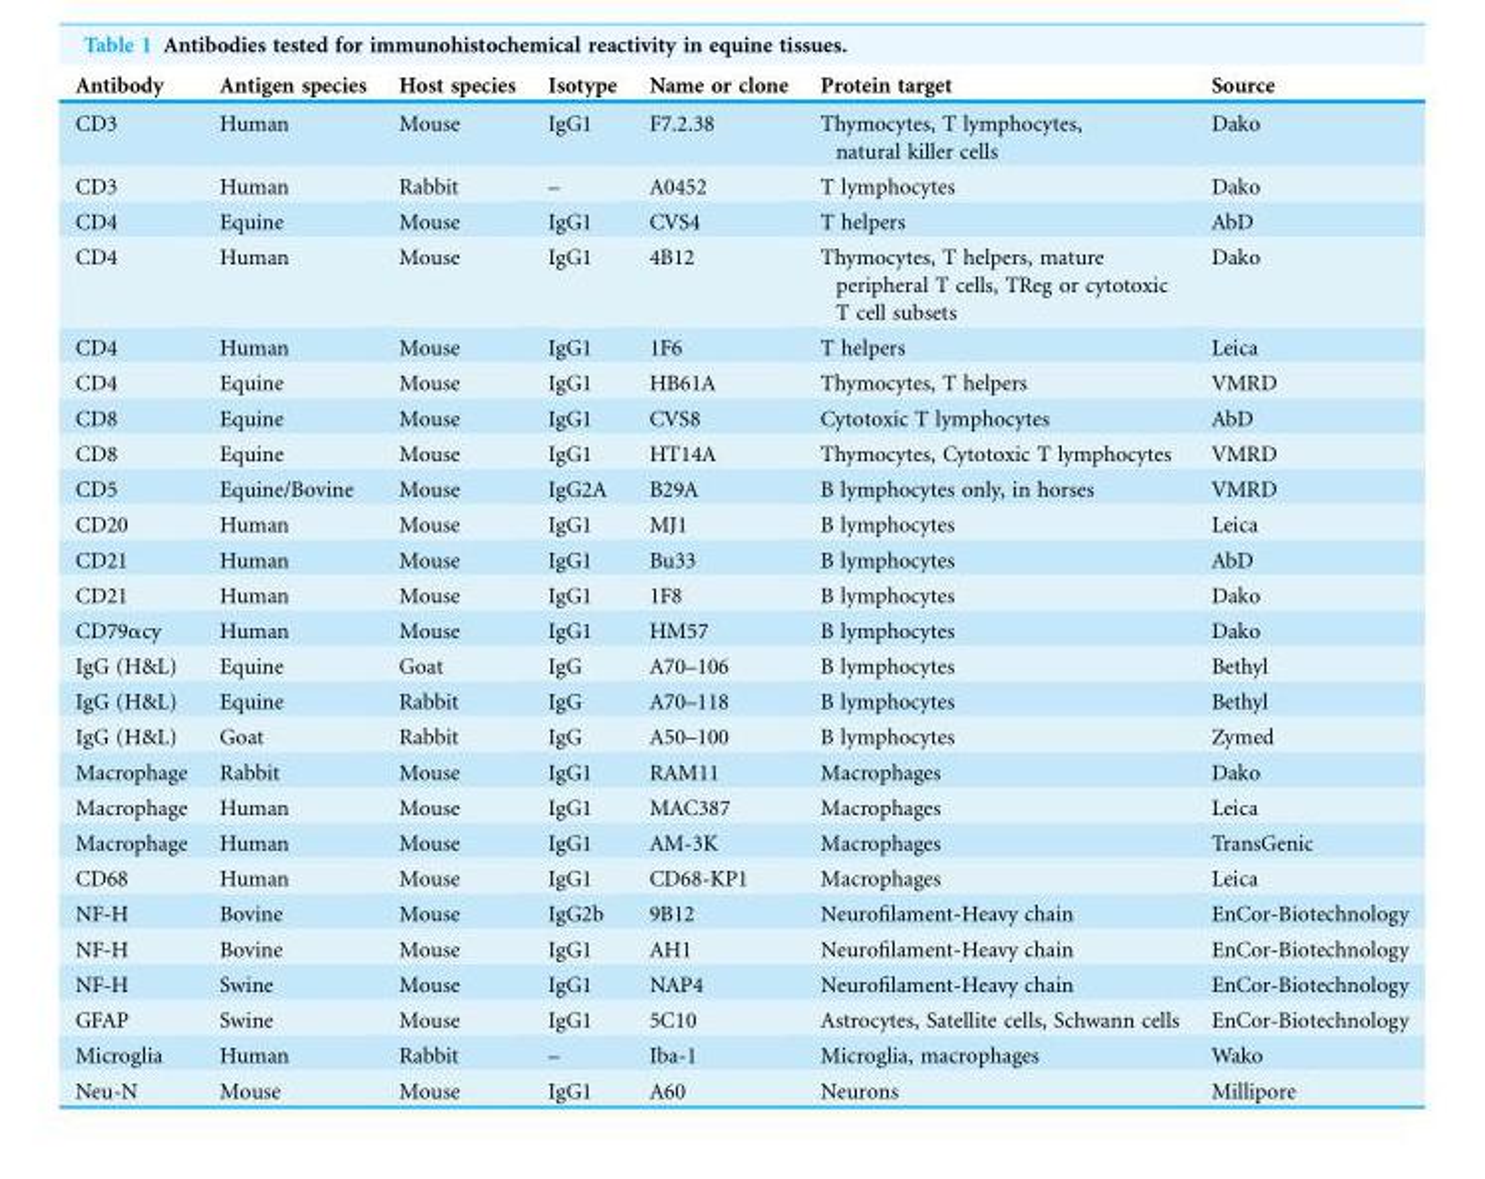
<table><thead><tr><td>Antibody</td><td>Antigen species</td><td>Host species</td><td>Isotype</td><td>Name or clone</td><td>Protein target</td><td>Source</td></tr></thead><tbody><tr><td>CD3</td><td>Human</td><td>Mouse</td><td>IgG1</td><td>F7.2.38</td><td>Thymocytes, T lymphocytes, natural killer cells</td><td>Dako</td></tr><tr><td>CD3</td><td>Human</td><td>Rabbit</td><td>–</td><td>A0452</td><td>T lymphocytes</td><td>Dako</td></tr><tr><td>CD4</td><td>Equine</td><td>Mouse</td><td>IgG1</td><td>CVS4</td><td>T helpers</td><td>AbD</td></tr><tr><td>CD4</td><td>Human</td><td>Mouse</td><td>IgG1</td><td>4B12</td><td>Thymocytes, T helpers, mature peripheral T cells, TReg or cytotoxic T cell subsets</td><td>Dako</td></tr><tr><td>CD4</td><td>Human</td><td>Mouse</td><td>IgG1</td><td>1F6</td><td>T helpers</td><td>Leica</td></tr><tr><td>CD4</td><td>Equine</td><td>Mouse</td><td>IgG1</td><td>HB61A</td><td>Thymocytes, T helpers</td><td>VMRD</td></tr><tr><td>CD8</td><td>Equine</td><td>Mouse</td><td>IgG1</td><td>CVS8</td><td>Cytotoxic T lymphocytes</td><td>AbD</td></tr><tr><td>CD8</td><td>Equine</td><td>Mouse</td><td>IgG1</td><td>HT14A</td><td>Thymocytes, Cytotoxic T lymphocytes</td><td>VMRD</td></tr><tr><td>CD5</td><td>Equine/Bovine</td><td>Mouse</td><td>IgG2A</td><td>B29A</td><td>B lymphocytes only, in horses</td><td>VMRD</td></tr><tr><td>CD20</td><td>Human</td><td>Mouse</td><td>IgG1</td><td>MJ1</td><td>B lymphocytes</td><td>Leica</td></tr><tr><td>CD21</td><td>Human</td><td>Mouse</td><td>IgG1</td><td>Bu33</td><td>B lymphocytes</td><td>AbD</td></tr><tr><td>CD21</td><td>Human</td><td>Mouse</td><td>IgG1</td><td>1F8</td><td>B lymphocytes</td><td>Dako</td></tr><tr><td>CD79αcy</td><td>Human</td><td>Mouse</td><td>IgG1</td><td>HM57</td><td>B lymphocytes</td><td>Dako</td></tr><tr><td>IgG (H&amp;L)</td><td>Equine</td><td>Goat</td><td>IgG</td><td>A70–106</td><td>B lymphocytes</td><td>Bethyl</td></tr><tr><td>IgG (H&amp;L)</td><td>Equine</td><td>Rabbit</td><td>IgG</td><td>A70–118</td><td>B lymphocytes</td><td>Bethyl</td></tr><tr><td>IgG (H&amp;L)</td><td>Goat</td><td>Rabbit</td><td>IgG</td><td>A50–100</td><td>B lymphocytes</td><td>Zymed</td></tr><tr><td>Macrophage</td><td>Rabbit</td><td>Mouse</td><td>IgG1</td><td>RAM11</td><td>Macrophages</td><td>Dako</td></tr><tr><td>Macrophage</td><td>Human</td><td>Mouse</td><td>IgG1</td><td>MAC387</td><td>Macrophages</td><td>Leica</td></tr><tr><td>Macrophage</td><td>Human</td><td>Mouse</td><td>IgG1</td><td>AM-3K</td><td>Macrophages</td><td>TransGenic</td></tr><tr><td>CD68</td><td>Human</td><td>Mouse</td><td>IgG1</td><td>CD68-KP1</td><td>Macrophages</td><td>Leica</td></tr><tr><td>NF-H</td><td>Bovine</td><td>Mouse</td><td>IgG2b</td><td>9B12</td><td>Neurofilament-Heavy chain</td><td>EnCor-Biotechnology</td></tr><tr><td>NF-H</td><td>Bovine</td><td>Mouse</td><td>IgG1</td><td>AH1</td><td>Neurofilament-Heavy chain</td><td>EnCor-Biotechnology</td></tr><tr><td>NF-H</td><td>Swine</td><td>Mouse</td><td>IgG1</td><td>NAP4</td><td>Neurofilament-Heavy chain</td><td>EnCor-Biotechnology</td></tr><tr><td>GFAP</td><td>Swine</td><td>Mouse</td><td>IgG1</td><td>5C10</td><td>Astrocytes, Satellite cells, Schwann cells</td><td>EnCor-Biotechnology</td></tr><tr><td>Microglia</td><td>Human</td><td>Rabbit</td><td>–</td><td>Iba-1</td><td>Microglia, macrophages</td><td>Wako</td></tr><tr><td>Neu-N</td><td>Mouse</td><td>Mouse</td><td>IgG1</td><td>A60</td><td>Neurons</td><td>Millipore</td></tr></tbody></table>